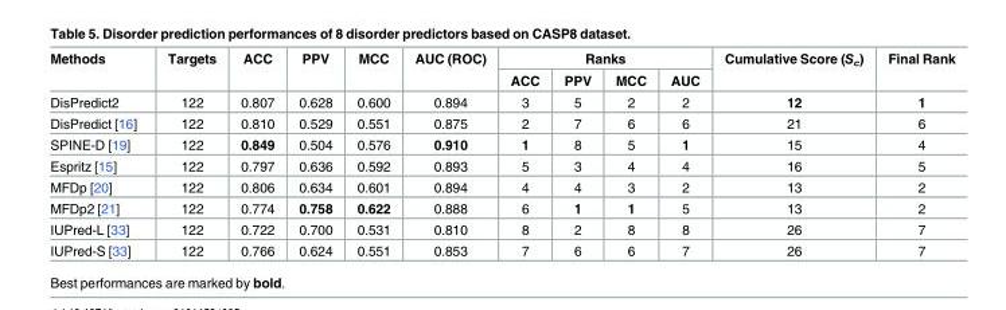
<table><thead><tr><td rowspan="2">Methods</td><td rowspan="2">Targets</td><td rowspan="2">ACC</td><td rowspan="2">PPV</td><td rowspan="2">MCC</td><td rowspan="2">AUC (ROC)</td><td colspan="4">Ranks</td><td rowspan="2">Cumulative Score (S<sub>c</sub>)</td><td rowspan="2">Final Rank</td></tr><tr><td>ACC</td><td>PPV</td><td>MCC</td><td>AUC</td></tr></thead><tbody><tr><td>DisPredict2</td><td>122</td><td>0.807</td><td>0.628</td><td>0.600</td><td>0.894</td><td>3</td><td>5</td><td>2</td><td>2</td><td>12</td><td>1</td></tr><tr><td>DisPredict [16]</td><td>122</td><td>0.810</td><td>0.529</td><td>0.551</td><td>0.875</td><td>2</td><td>7</td><td>6</td><td>6</td><td>21</td><td>6</td></tr><tr><td>SPINE-D [19]</td><td>122</td><td>0.849</td><td>0.504</td><td>0.576</td><td>0.910</td><td>1</td><td>8</td><td>5</td><td>1</td><td>15</td><td>4</td></tr><tr><td>Espritz [15]</td><td>122</td><td>0.797</td><td>0.636</td><td>0.592</td><td>0.893</td><td>5</td><td>3</td><td>4</td><td>4</td><td>16</td><td>5</td></tr><tr><td>MFDp [20]</td><td>122</td><td>0.806</td><td>0.634</td><td>0.601</td><td>0.894</td><td>4</td><td>4</td><td>3</td><td>2</td><td>13</td><td>2</td></tr><tr><td>MFDp2 [21]</td><td>122</td><td>0.774</td><td>0.758</td><td>0.622</td><td>0.888</td><td>6</td><td>1</td><td>1</td><td>5</td><td>13</td><td>2</td></tr><tr><td>IUPred-L [33]</td><td>122</td><td>0.722</td><td>0.700</td><td>0.531</td><td>0.810</td><td>8</td><td>2</td><td>8</td><td>8</td><td>26</td><td>7</td></tr><tr><td>IUPred-S [33]</td><td>122</td><td>0.766</td><td>0.624</td><td>0.551</td><td>0.853</td><td>7</td><td>6</td><td>6</td><td>7</td><td>26</td><td>7</td></tr></tbody></table>